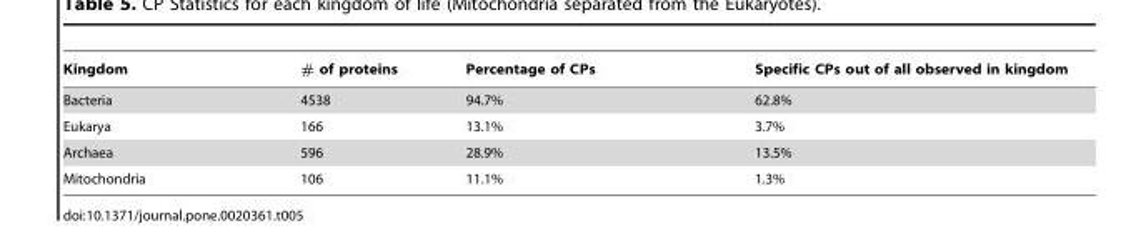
<table><thead><tr><td>Kingdom</td><td># of proteins</td><td>Percentage of CPs</td><td>Specific CPs out of all observed in kingdom</td></tr></thead><tbody><tr><td>Bacteria</td><td>4538</td><td>94.7%</td><td>62.8%</td></tr><tr><td>Eukarya</td><td>166</td><td>13.1%</td><td>3.7%</td></tr><tr><td>Archaea</td><td>596</td><td>28.9%</td><td>13.5%</td></tr><tr><td>Mitochondria</td><td>106</td><td>11.1%</td><td>1.3%</td></tr></tbody></table>